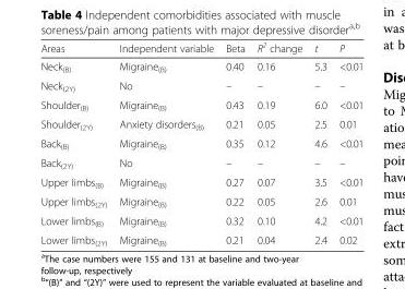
<table><thead><tr><td>Areas</td><td>Independent variable</td><td>Beta</td><td>R<sup>2</sup> change</td><td>t</td><td>P</td></tr></thead><tbody><tr><td>Neck<sub>(B)</sub></td><td>Migraine<sub>(B)</sub></td><td>0.40</td><td>0.16</td><td>5.3</td><td>&lt;0.01</td></tr><tr><td>Neck<sub>(2Y)</sub></td><td>No</td><td>–</td><td>–</td><td>–</td><td>–</td></tr><tr><td>Shoulder<sub>(B)</sub></td><td>Migraine<sub>(B)</sub></td><td>0.43</td><td>0.19</td><td>6.0</td><td>&lt;0.01</td></tr><tr><td>Shoulder<sub>(2Y)</sub></td><td>Anxiety disorders<sub>(B)</sub></td><td>0.21</td><td>0.05</td><td>2.5</td><td>0.01</td></tr><tr><td>Back<sub>(B)</sub></td><td>Migraine<sub>(B)</sub></td><td>0.35</td><td>0.12</td><td>4.6</td><td>&lt;0.01</td></tr><tr><td>Back<sub>(2Y)</sub></td><td>No</td><td>–</td><td>–</td><td>–</td><td>–</td></tr><tr><td>Upper limbs<sub>(B)</sub></td><td>Migraine<sub>(B)</sub></td><td>0.27</td><td>0.07</td><td>3.5</td><td>&lt;0.01</td></tr><tr><td>Upper limbs<sub>(2Y)</sub></td><td>Migraine<sub>(B)</sub></td><td>0.22</td><td>0.05</td><td>2.6</td><td>0.01</td></tr><tr><td>Lower limbs<sub>(B)</sub></td><td>Migraine<sub>(B)</sub></td><td>0.32</td><td>0.10</td><td>4.2</td><td>&lt;0.01</td></tr><tr><td>Lower limbs<sub>(2Y)</sub></td><td>Migraine<sub>(B)</sub></td><td>0.21</td><td>0.04</td><td>2.4</td><td>0.02</td></tr></tbody></table>